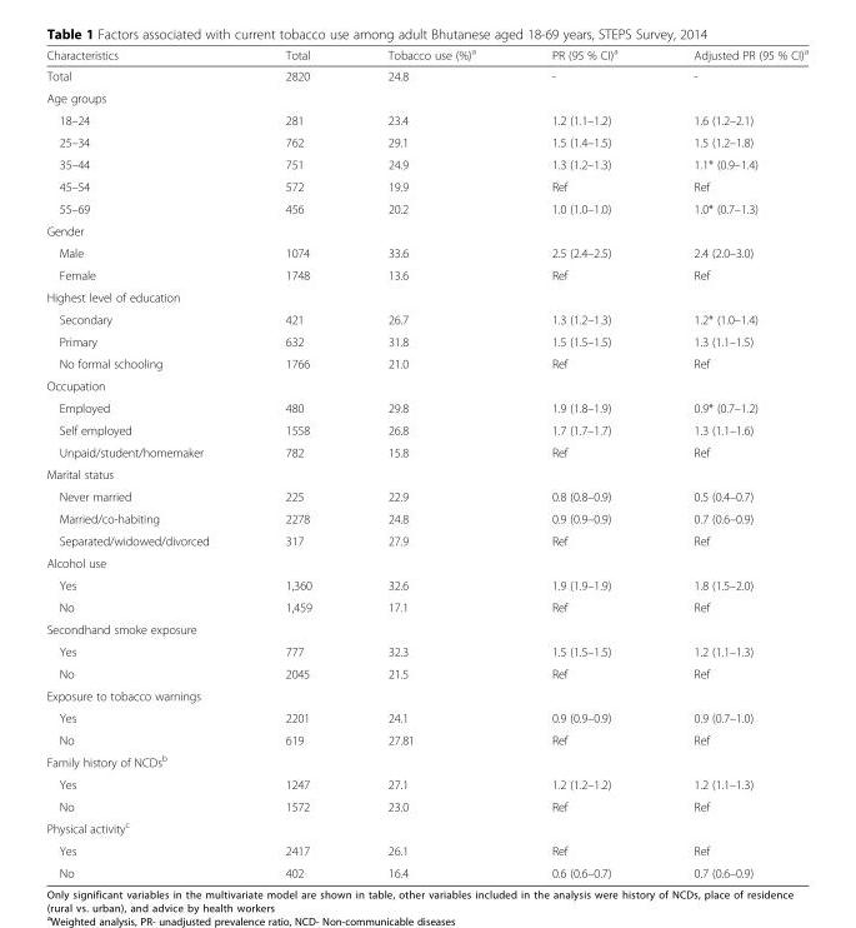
<table><thead><tr><td>Characteristics</td><td>Total</td><td>Tobacco use (%)<sup>a</sup></td><td>PR (95 % CI)<sup>a</sup></td><td>Adjusted PR (95 % CI)<sup>a</sup></td></tr></thead><tbody><tr><td>Total</td><td>2820</td><td>24.8</td><td>-</td><td>-</td></tr><tr><td colspan="5">Age groups</td></tr><tr><td>18–24</td><td>281</td><td>23.4</td><td>1.2 (1.1–1.2)</td><td>1.6 (1.2–2.1)</td></tr><tr><td>25–34</td><td>762</td><td>29.1</td><td>1.5 (1.4–1.5)</td><td>1.5 (1.2–1.8)</td></tr><tr><td>35–44</td><td>751</td><td>24.9</td><td>1.3 (1.2–1.3)</td><td>1.1* (0.9–1.4)</td></tr><tr><td>45–54</td><td>572</td><td>19.9</td><td>Ref</td><td>Ref</td></tr><tr><td>55–69</td><td>456</td><td>20.2</td><td>1.0 (1.0–1.0)</td><td>1.0* (0.7–1.3)</td></tr><tr><td colspan="5">Gender</td></tr><tr><td>Male</td><td>1074</td><td>33.6</td><td>2.5 (2.4–2.5)</td><td>2.4 (2.0–3.0)</td></tr><tr><td>Female</td><td>1748</td><td>13.6</td><td>Ref</td><td>Ref</td></tr><tr><td colspan="5">Highest level of education</td></tr><tr><td>Secondary</td><td>421</td><td>26.7</td><td>1.3 (1.2–1.3)</td><td>1.2* (1.0–1.4)</td></tr><tr><td>Primary</td><td>632</td><td>31.8</td><td>1.5 (1.5–1.5)</td><td>1.3 (1.1–1.5)</td></tr><tr><td>No formal schooling</td><td>1766</td><td>21.0</td><td>Ref</td><td>Ref</td></tr><tr><td colspan="5">Occupation</td></tr><tr><td>Employed</td><td>480</td><td>29.8</td><td>1.9 (1.8–1.9)</td><td>0.9* (0.7–1.2)</td></tr><tr><td>Self employed</td><td>1558</td><td>26.8</td><td>1.7 (1.7–1.7)</td><td>1.3 (1.1–1.6)</td></tr><tr><td>Unpaid/student/homemaker</td><td>782</td><td>15.8</td><td>Ref</td><td>Ref</td></tr><tr><td colspan="5">Marital status</td></tr><tr><td>Never married</td><td>225</td><td>22.9</td><td>0.8 (0.8–0.9)</td><td>0.5 (0.4–0.7)</td></tr><tr><td>Married/co-habiting</td><td>2278</td><td>24.8</td><td>0.9 (0.9–0.9)</td><td>0.7 (0.6–0.9)</td></tr><tr><td>Separated/widowed/divorced</td><td>317</td><td>27.9</td><td>Ref</td><td>Ref</td></tr><tr><td colspan="5">Alcohol use</td></tr><tr><td>Yes</td><td>1,360</td><td>32.6</td><td>1.9 (1.9–1.9)</td><td>1.8 (1.5–2.0)</td></tr><tr><td>No</td><td>1,459</td><td>17.1</td><td>Ref</td><td>Ref</td></tr><tr><td colspan="5">Secondhand smoke exposure</td></tr><tr><td>Yes</td><td>777</td><td>32.3</td><td>1.5 (1.5–1.5)</td><td>1.2 (1.1–1.3)</td></tr><tr><td>No</td><td>2045</td><td>21.5</td><td>Ref</td><td>Ref</td></tr><tr><td colspan="5">Exposure to tobacco warnings</td></tr><tr><td>Yes</td><td>2201</td><td>24.1</td><td>0.9 (0.9–0.9)</td><td>0.9 (0.7–1.0)</td></tr><tr><td>No</td><td>619</td><td>27.81</td><td>Ref</td><td>Ref</td></tr><tr><td colspan="5">Family history of NCDs<sup>b</sup></td></tr><tr><td>Yes</td><td>1247</td><td>27.1</td><td>1.2 (1.2–1.2)</td><td>1.2 (1.1–1.3)</td></tr><tr><td>No</td><td>1572</td><td>23.0</td><td>Ref</td><td>Ref</td></tr><tr><td colspan="5">Physical activity<sup>c</sup></td></tr><tr><td>Yes</td><td>2417</td><td>26.1</td><td>Ref</td><td>Ref</td></tr><tr><td>No</td><td>402</td><td>16.4</td><td>0.6 (0.6–0.7)</td><td>0.7 (0.6–0.9)</td></tr></tbody></table>